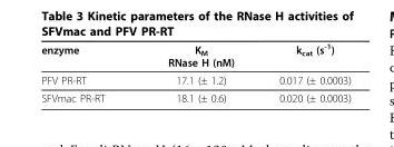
<table><thead><tr><td>enzyme</td><td>K<sub>M</sub> RNase H (nM)</td><td>k<sub>cat</sub> (s<sup>-1</sup>)</td></tr></thead><tbody><tr><td>PFV PR-RT</td><td>17.1 (± 1.2)</td><td>0.017 (± 0.0003)</td></tr><tr><td>SFVmac PR-RT</td><td>18.1 (± 0.6)</td><td>0.020 (± 0.0003)</td></tr></tbody></table>